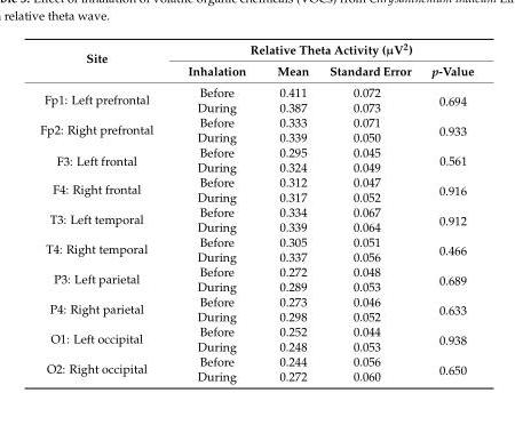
<table><thead><tr><td rowspan="2">Site</td><td colspan="4">Relative Theta Activity (µV<sup>2</sup>)</td></tr><tr><td>Inhalation</td><td>Mean</td><td>Standard Error</td><td>p-Value</td></tr></thead><tbody><tr><td rowspan="2">Fp1: Left prefrontal</td><td>Before</td><td>0.411</td><td>0.072</td><td rowspan="2">0.694</td></tr><tr><td>During</td><td>0.387</td><td>0.073</td></tr><tr><td rowspan="2">Fp2: Right prefrontal</td><td>Before</td><td>0.333</td><td>0.071</td><td rowspan="2">0.933</td></tr><tr><td>During</td><td>0.339</td><td>0.050</td></tr><tr><td rowspan="2">F3: Left frontal</td><td>Before</td><td>0.295</td><td>0.045</td><td rowspan="2">0.561</td></tr><tr><td>During</td><td>0.324</td><td>0.049</td></tr><tr><td rowspan="2">F4: Right frontal</td><td>Before</td><td>0.312</td><td>0.047</td><td rowspan="2">0.916</td></tr><tr><td>During</td><td>0.317</td><td>0.052</td></tr><tr><td rowspan="2">T3: Left temporal</td><td>Before</td><td>0.334</td><td>0.067</td><td rowspan="2">0.912</td></tr><tr><td>During</td><td>0.339</td><td>0.064</td></tr><tr><td rowspan="2">T4: Right temporal</td><td>Before</td><td>0.305</td><td>0.051</td><td rowspan="2">0.466</td></tr><tr><td>During</td><td>0.337</td><td>0.056</td></tr><tr><td rowspan="2">P3: Left parietal</td><td>Before</td><td>0.272</td><td>0.048</td><td rowspan="2">0.689</td></tr><tr><td>During</td><td>0.289</td><td>0.053</td></tr><tr><td rowspan="2">P4: Right parietal</td><td>Before</td><td>0.273</td><td>0.046</td><td rowspan="2">0.633</td></tr><tr><td>During</td><td>0.298</td><td>0.052</td></tr><tr><td rowspan="2">O1: Left occipital</td><td>Before</td><td>0.252</td><td>0.044</td><td rowspan="2">0.938</td></tr><tr><td>During</td><td>0.248</td><td>0.053</td></tr><tr><td rowspan="2">O2: Right occipital</td><td>Before</td><td>0.244</td><td>0.056</td><td rowspan="2">0.650</td></tr><tr><td>During</td><td>0.272</td><td>0.060</td></tr></tbody></table>